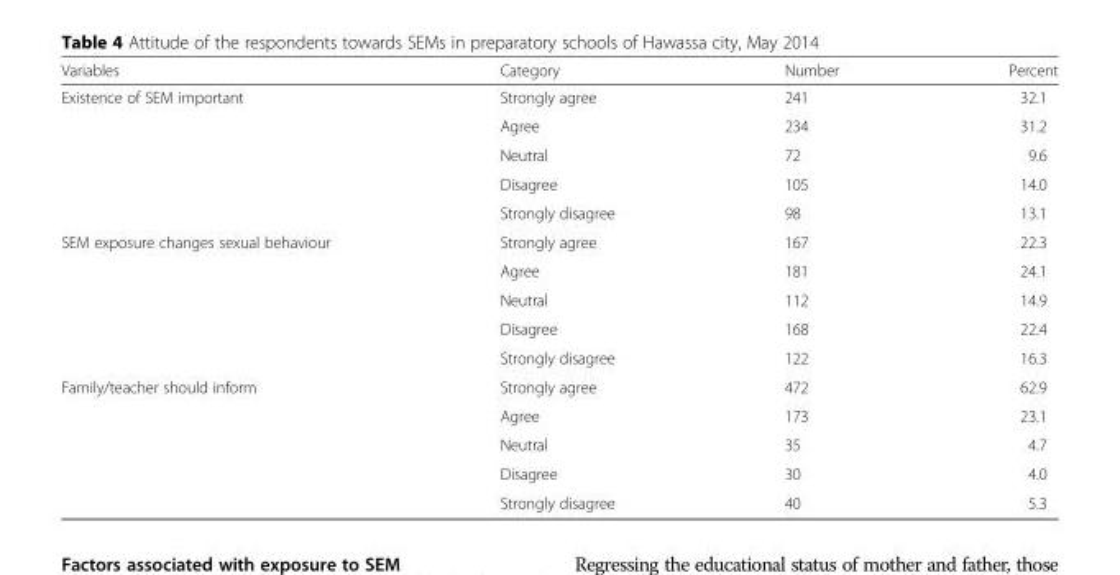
<table><thead><tr><td>Variables</td><td>Category</td><td>Number</td><td>Percent</td></tr></thead><tbody><tr><td rowspan="5">Existence of SEM important</td><td>Strongly agree</td><td>241</td><td>32.1</td></tr><tr><td>Agree</td><td>234</td><td>31.2</td></tr><tr><td>Neutral</td><td>72</td><td>9.6</td></tr><tr><td>Disagree</td><td>105</td><td>14.0</td></tr><tr><td>Strongly disagree</td><td>98</td><td>13.1</td></tr><tr><td rowspan="5">SEM exposure changes sexual behaviour</td><td>Strongly agree</td><td>167</td><td>22.3</td></tr><tr><td>Agree</td><td>181</td><td>24.1</td></tr><tr><td>Neutral</td><td>112</td><td>14.9</td></tr><tr><td>Disagree</td><td>168</td><td>22.4</td></tr><tr><td>Strongly disagree</td><td>122</td><td>16.3</td></tr><tr><td rowspan="5">Family/teacher should inform</td><td>Strongly agree</td><td>472</td><td>62.9</td></tr><tr><td>Agree</td><td>173</td><td>23.1</td></tr><tr><td>Neutral</td><td>35</td><td>4.7</td></tr><tr><td>Disagree</td><td>30</td><td>4.0</td></tr><tr><td>Strongly disagree</td><td>40</td><td>5.3</td></tr></tbody></table>